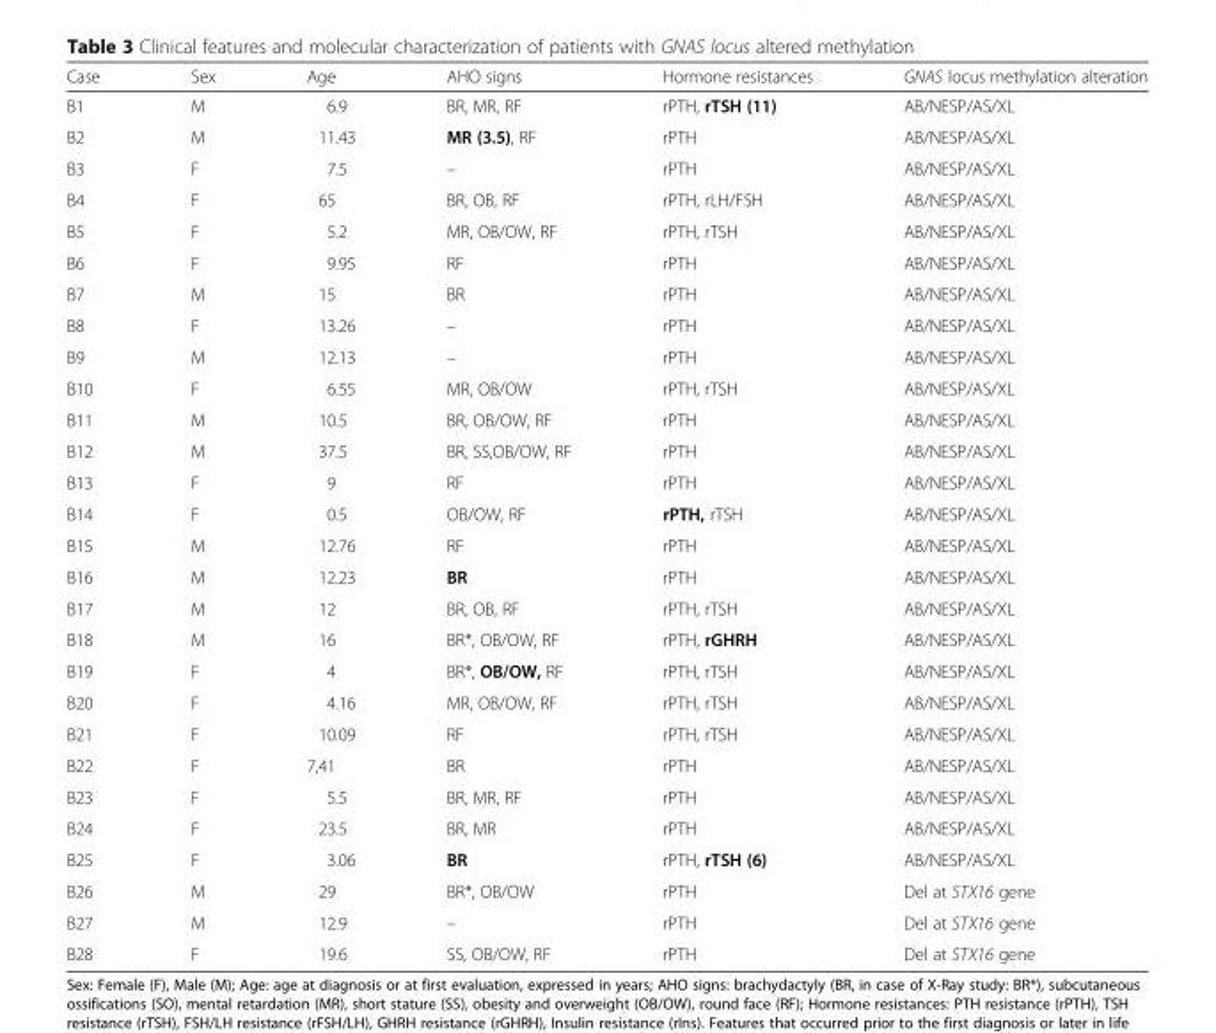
<table><thead><tr><td>Case</td><td>Sex</td><td>Age</td><td>AHO signs</td><td>Hormone resistances</td><td>GNAS locus methylation alteration</td></tr></thead><tbody><tr><td>B1</td><td>M</td><td>6.9</td><td>BR, MR, RF</td><td>rPTH, rTSH (11)</td><td>AB/NESP/AS/XL</td></tr><tr><td>B2</td><td>M</td><td>11.43</td><td>MR (3.5), RF</td><td>rPTH</td><td>AB/NESP/AS/XL</td></tr><tr><td>B3</td><td>F</td><td>7.5</td><td>–</td><td>rPTH</td><td>AB/NESP/AS/XL</td></tr><tr><td>B4</td><td>F</td><td>65</td><td>BR, OB, RF</td><td>rPTH, rLH/FSH</td><td>AB/NESP/AS/XL</td></tr><tr><td>B5</td><td>F</td><td>5.2</td><td>MR, OB/OW, RF</td><td>rPTH, rTSH</td><td>AB/NESP/AS/XL</td></tr><tr><td>B6</td><td>F</td><td>9.95</td><td>RF</td><td>rPTH</td><td>AB/NESP/AS/XL</td></tr><tr><td>B7</td><td>M</td><td>15</td><td>BR</td><td>rPTH</td><td>AB/NESP/AS/XL</td></tr><tr><td>B8</td><td>F</td><td>13.26</td><td>–</td><td>rPTH</td><td>AB/NESP/AS/XL</td></tr><tr><td>B9</td><td>M</td><td>12.13</td><td>–</td><td>rPTH</td><td>AB/NESP/AS/XL</td></tr><tr><td>B10</td><td>F</td><td>6.55</td><td>MR, OB/OW</td><td>rPTH, rTSH</td><td>AB/NESP/AS/XL</td></tr><tr><td>B11</td><td>M</td><td>10.5</td><td>BR, OB/OW, RF</td><td>rPTH</td><td>AB/NESP/AS/XL</td></tr><tr><td>B12</td><td>M</td><td>37.5</td><td>BR, SS,OB/OW, RF</td><td>rPTH</td><td>AB/NESP/AS/XL</td></tr><tr><td>B13</td><td>F</td><td>9</td><td>RF</td><td>rPTH</td><td>AB/NESP/AS/XL</td></tr><tr><td>B14</td><td>F</td><td>0.5</td><td>OB/OW, RF</td><td>rPTH, rTSH</td><td>AB/NESP/AS/XL</td></tr><tr><td>B15</td><td>M</td><td>12.76</td><td>RF</td><td>rPTH</td><td>AB/NESP/AS/XL</td></tr><tr><td>B16</td><td>M</td><td>12.23</td><td>BR</td><td>rPTH</td><td>AB/NESP/AS/XL</td></tr><tr><td>B17</td><td>M</td><td>12</td><td>BR, OB, RF</td><td>rPTH, rTSH</td><td>AB/NESP/AS/XL</td></tr><tr><td>B18</td><td>M</td><td>16</td><td>BR*, OB/OW, RF</td><td>rPTH, rGHRH</td><td>AB/NESP/AS/XL</td></tr><tr><td>B19</td><td>F</td><td>4</td><td>BR*, OB/OW, RF</td><td>rPTH, rTSH</td><td>AB/NESP/AS/XL</td></tr><tr><td>B20</td><td>F</td><td>4.16</td><td>MR, OB/OW, RF</td><td>rPTH, rTSH</td><td>AB/NESP/AS/XL</td></tr><tr><td>B21</td><td>F</td><td>10.09</td><td>RF</td><td>rPTH, rTSH</td><td>AB/NESP/AS/XL</td></tr><tr><td>B22</td><td>F</td><td>7,41</td><td>BR</td><td>rPTH</td><td>AB/NESP/AS/XL</td></tr><tr><td>B23</td><td>F</td><td>5.5</td><td>BR, MR, RF</td><td>rPTH</td><td>AB/NESP/AS/XL</td></tr><tr><td>B24</td><td>F</td><td>23.5</td><td>BR, MR</td><td>rPTH</td><td>AB/NESP/AS/XL</td></tr><tr><td>B25</td><td>F</td><td>3.06</td><td>BR</td><td>rPTH, rTSH (6)</td><td>AB/NESP/AS/XL</td></tr><tr><td>B26</td><td>M</td><td>29</td><td>BR*, OB/OW</td><td>rPTH</td><td>Del at STX16 gene</td></tr><tr><td>B27</td><td>M</td><td>12.9</td><td>–</td><td>rPTH</td><td>Del at STX16 gene</td></tr><tr><td>B28</td><td>F</td><td>19.6</td><td>SS, OB/OW, RF</td><td>rPTH</td><td>Del at STX16 gene</td></tr></tbody></table>